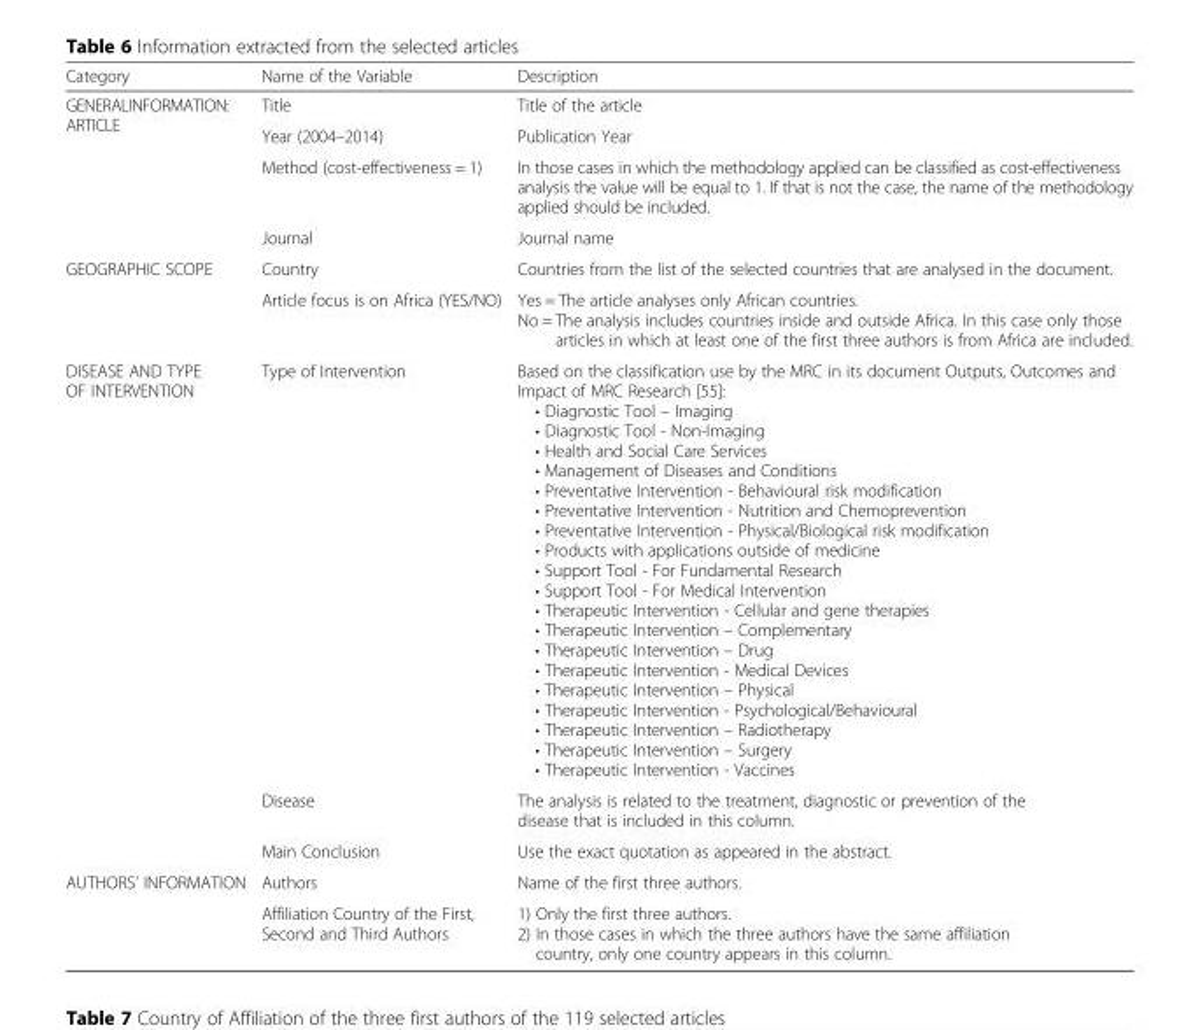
<table><thead><tr><td>Category</td><td>Name of the Variable</td><td>Description</td></tr></thead><tbody><tr><td rowspan="4">GENERALINFORMATION: ARTICLE</td><td>Title</td><td>Title of the article</td></tr><tr><td>Year (2004–2014)</td><td>Publication Year</td></tr><tr><td>Method (cost-effectiveness = 1)</td><td>In those cases in which the methodology applied can be classified as cost-effectiveness analysis the value will be equal to 1. If that is not the case, the name of the methodology applied should be included.</td></tr><tr><td>Journal</td><td>Journal name</td></tr><tr><td rowspan="2">GEOGRAPHIC SCOPE</td><td>Country</td><td>Countries from the list of the selected countries that are analysed in the document.</td></tr><tr><td>Article focus is on Africa (YES/NO)</td><td>Yes = The article analyses only African countries. No = The analysis includes countries inside and outside Africa. In this case only those articles in which at least one of the first three authors is from Africa are included.</td></tr><tr><td rowspan="3">DISEASE AND TYPE OF INTERVENTION</td><td>Type of Intervention</td><td>Based on the classification use by the MRC in its document Outputs, Outcomes and Impact of MRC Research [55]: • Diagnostic Tool – Imaging • Diagnostic Tool - Non-Imaging • Health and Social Care Services • Management of Diseases and Conditions • Preventative Intervention - Behavioural risk modification • Preventative Intervention - Nutrition and Chemoprevention • Preventative Intervention - Physical/Biological risk modification • Products with applications outside of medicine • Support Tool - For Fundamental Research • Support Tool - For Medical Intervention • Therapeutic Intervention - Cellular and gene therapies • Therapeutic Intervention – Complementary • Therapeutic Intervention – Drug • Therapeutic Intervention - Medical Devices • Therapeutic Intervention – Physical • Therapeutic Intervention - Psychological/Behavioural • Therapeutic Intervention – Radiotherapy • Therapeutic Intervention – Surgery • Therapeutic Intervention - Vaccines</td></tr><tr><td>Disease</td><td>The analysis is related to the treatment, diagnostic or prevention of the disease that is included in this column.</td></tr><tr><td>Main Conclusion</td><td>Use the exact quotation as appeared in the abstract.</td></tr><tr><td rowspan="2">AUTHORS’ INFORMATION</td><td>Authors</td><td>Name of the first three authors.</td></tr><tr><td>Affiliation Country of the First, Second and Third Authors</td><td>1) Only the first three authors. 2) In those cases in which the three authors have the same affiliation country, only one country appears in this column.</td></tr></tbody></table>